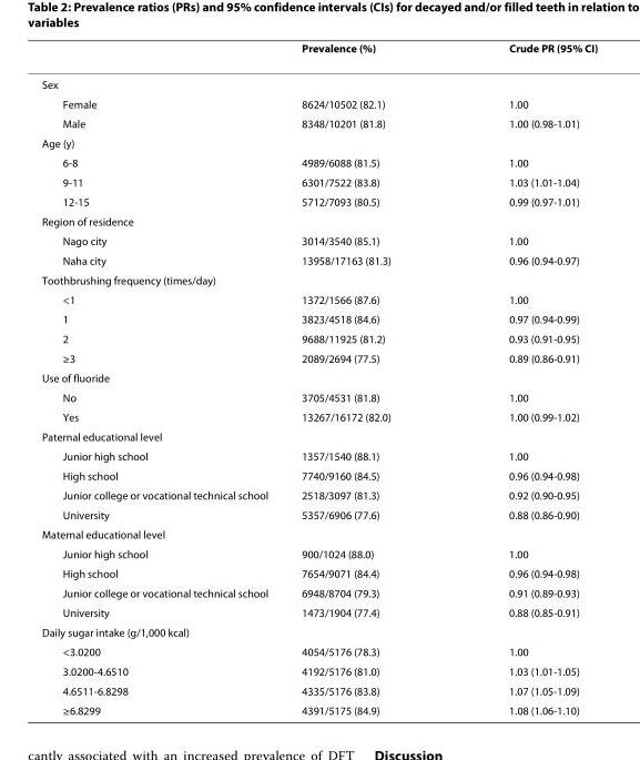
<table><thead><tr><td></td><td>Prevalence (%)</td><td>Crude PR (95% CI)</td></tr></thead><tbody><tr><td colspan="3">Sex</td></tr><tr><td>Female</td><td>8624/10502 (82.1)</td><td>1.00</td></tr><tr><td>Male</td><td>8348/10201 (81.8)</td><td>1.00 (0.98-1.01)</td></tr><tr><td colspan="3">Age (y)</td></tr><tr><td>6-8</td><td>4989/6088 (81.5)</td><td>1.00</td></tr><tr><td>9-11</td><td>6301/7522 (83.8)</td><td>1.03 (1.01-1.04)</td></tr><tr><td>12-15</td><td>5712/7093 (80.5)</td><td>0.99 (0.97-1.01)</td></tr><tr><td colspan="3">Region of residence</td></tr><tr><td>Nago city</td><td>3014/3540 (85.1)</td><td>1.00</td></tr><tr><td>Naha city</td><td>13958/17163 (81.3)</td><td>0.96 (0.94-0.97)</td></tr><tr><td colspan="3">Toothbrushing frequency (times/day)</td></tr><tr><td>&lt;1</td><td>1372/1566 (87.6)</td><td>1.00</td></tr><tr><td>1</td><td>3823/4518 (84.6)</td><td>0.97 (0.94-0.99)</td></tr><tr><td>2</td><td>9688/11925 (81.2)</td><td>0.93 (0.91-0.95)</td></tr><tr><td>≥3</td><td>2089/2694 (77.5)</td><td>0.89 (0.86-0.91)</td></tr><tr><td colspan="3">Use of fluoride</td></tr><tr><td>No</td><td>3705/4531 (81.8)</td><td>1.00</td></tr><tr><td>Yes</td><td>13267/16172 (82.0)</td><td>1.00 (0.99-1.02)</td></tr><tr><td colspan="3">Paternal educational level</td></tr><tr><td>Junior high school</td><td>1357/1540 (88.1)</td><td>1.00</td></tr><tr><td>High school</td><td>7740/9160 (84.5)</td><td>0.96 (0.94-0.98)</td></tr><tr><td>Junior college or vocational technical school</td><td>2518/3097 (81.3)</td><td>0.92 (0.90-0.95)</td></tr><tr><td>University</td><td>5357/6906 (77.6)</td><td>0.88 (0.86-0.90)</td></tr><tr><td colspan="3">Maternal educational level</td></tr><tr><td>Junior high school</td><td>900/1024 (88.0)</td><td>1.00</td></tr><tr><td>High school</td><td>7654/9071 (84.4)</td><td>0.96 (0.94-0.98)</td></tr><tr><td>Junior college or vocational technical school</td><td>6948/8704 (79.3)</td><td>0.91 (0.89-0.93)</td></tr><tr><td>University</td><td>1473/1904 (77.4)</td><td>0.88 (0.85-0.91)</td></tr><tr><td colspan="3">Daily sugar intake (g/1,000 kcal)</td></tr><tr><td>&lt;3.0200</td><td>4054/5176 (78.3)</td><td>1.00</td></tr><tr><td>3.0200-4.6510</td><td>4192/5176 (81.0)</td><td>1.03 (1.01-1.05)</td></tr><tr><td>4.6511-6.8298</td><td>4335/5176 (83.8)</td><td>1.07 (1.05-1.09)</td></tr><tr><td>≥6.8299</td><td>4391/5175 (84.9)</td><td>1.08 (1.06-1.10)</td></tr></tbody></table>